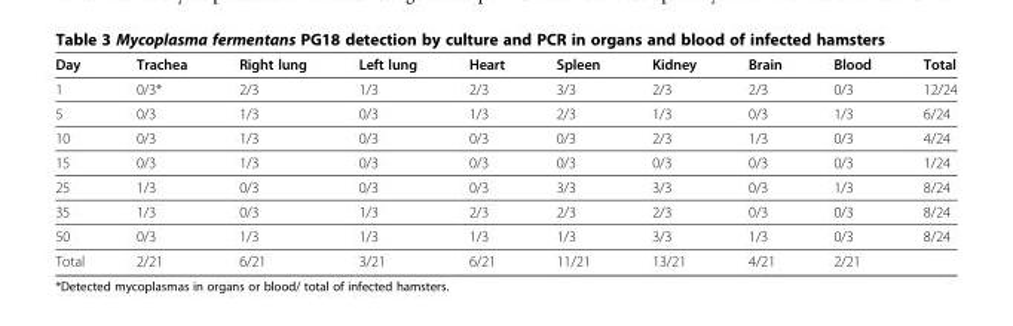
<table><thead><tr><td>Day</td><td>Trachea</td><td>Right lung</td><td>Left lung</td><td>Heart</td><td>Spleen</td><td>Kidney</td><td>Brain</td><td>Blood</td><td>Total</td></tr></thead><tbody><tr><td>1</td><td>0/3*</td><td>2/3</td><td>1/3</td><td>2/3</td><td>3/3</td><td>2/3</td><td>2/3</td><td>0/3</td><td>12/24</td></tr><tr><td>5</td><td>0/3</td><td>1/3</td><td>0/3</td><td>1/3</td><td>2/3</td><td>1/3</td><td>0/3</td><td>1/3</td><td>6/24</td></tr><tr><td>10</td><td>0/3</td><td>1/3</td><td>0/3</td><td>0/3</td><td>0/3</td><td>2/3</td><td>1/3</td><td>0/3</td><td>4/24</td></tr><tr><td>15</td><td>0/3</td><td>1/3</td><td>0/3</td><td>0/3</td><td>0/3</td><td>0/3</td><td>0/3</td><td>0/3</td><td>1/24</td></tr><tr><td>25</td><td>1/3</td><td>0/3</td><td>0/3</td><td>0/3</td><td>3/3</td><td>3/3</td><td>0/3</td><td>1/3</td><td>8/24</td></tr><tr><td>35</td><td>1/3</td><td>0/3</td><td>1/3</td><td>2/3</td><td>2/3</td><td>2/3</td><td>0/3</td><td>0/3</td><td>8/24</td></tr><tr><td>50</td><td>0/3</td><td>1/3</td><td>1/3</td><td>1/3</td><td>1/3</td><td>3/3</td><td>1/3</td><td>0/3</td><td>8/24</td></tr><tr><td>Total</td><td>2/21</td><td>6/21</td><td>3/21</td><td>6/21</td><td>11/21</td><td>13/21</td><td>4/21</td><td>2/21</td><td></td></tr></tbody></table>